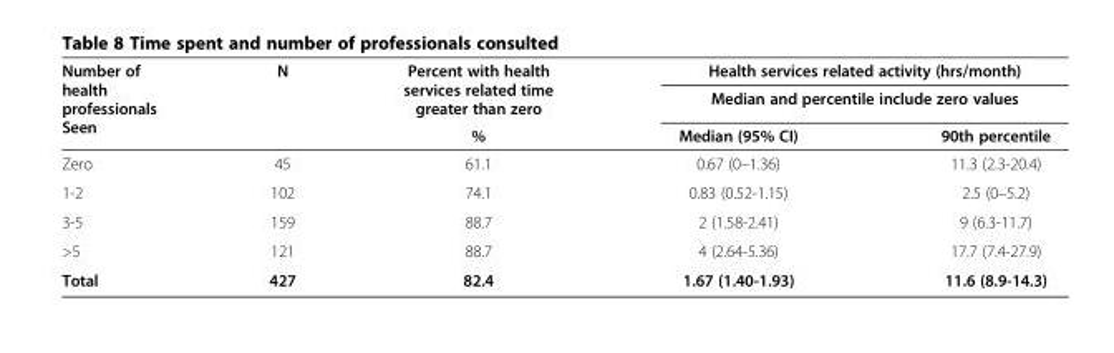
<table><thead><tr><td rowspan="3">Number of health professionals Seen</td><td rowspan="3">N</td><td rowspan="3">Percent with health services related time greater than zero %</td><td rowspan="2" colspan="2">Health services related activity (hrs/month) Median and percentile include zero values</td></tr><tr></tr><tr><td>Median (95% CI)</td><td>90th percentile</td></tr></thead><tbody><tr><td>Zero</td><td>45</td><td>61.1</td><td>0.67 (0–1.36)</td><td>11.3 (2.3-20.4)</td></tr><tr><td>1-2</td><td>102</td><td>74.1</td><td>0.83 (0.52-1.15)</td><td>2.5 (0–5.2)</td></tr><tr><td>3-5</td><td>159</td><td>88.7</td><td>2 (1.58-2.41)</td><td>9 (6.3-11.7)</td></tr><tr><td>&gt;5</td><td>121</td><td>88.7</td><td>4 (2.64-5.36)</td><td>17.7 (7.4-27.9)</td></tr><tr><td>Total</td><td>427</td><td>82.4</td><td>1.67 (1.40-1.93)</td><td>11.6 (8.9-14.3)</td></tr></tbody></table>